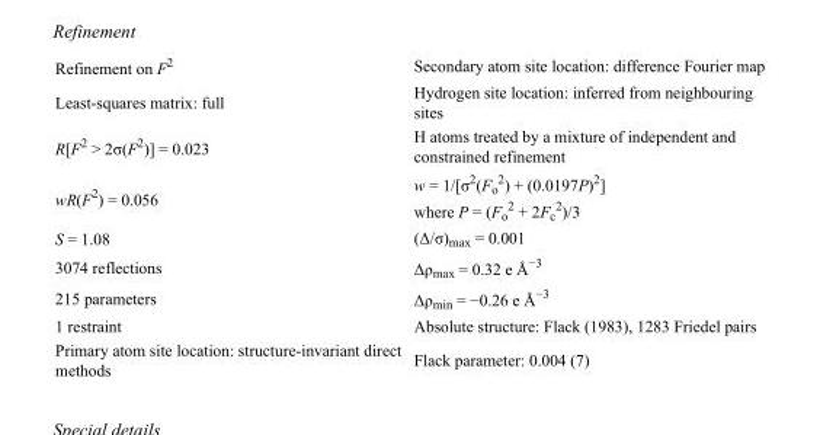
<table><tbody><tr><td>Refinement on F<sup>2</sup></td><td>Secondary atom site location: difference Fourier map</td></tr><tr><td>Least-squares matrix: full</td><td>Hydrogen site location: inferred from neighbouring sites</td></tr><tr><td>R[F<sup>2</sup> &gt; 2σ(F<sup>2</sup>)] = 0.023</td><td>H atoms treated by a mixture of independent and constrained refinement</td></tr><tr><td>wR(F<sup>2</sup>) = 0.056</td><td>w = 1/[σ<sup>2</sup>(F<sub>o</sub> <sup>2</sup>) + (0.0197P)<sup>2</sup>] where P = (F<sub>o</sub> <sup>2</sup> + 2F<sub>c</sub> <sup>2</sup>)/3</td></tr><tr><td>S = 1.08</td><td>(Δ/σ)<sub>max</sub> = 0.001</td></tr><tr><td>3074 reflections</td><td>Δρ<sub>max</sub> = 0.32 e Å<sup>−3</sup></td></tr><tr><td>215 parameters</td><td>Δρ<sub>min</sub> = −0.26 e Å<sup>−3</sup></td></tr><tr><td>1 restraint</td><td>Absolute structure: Flack (1983), 1283 Friedel pairs</td></tr><tr><td>Primary atom site location: structure-invariant direct methods</td><td>Flack parameter: 0.004 (7)</td></tr></tbody></table>